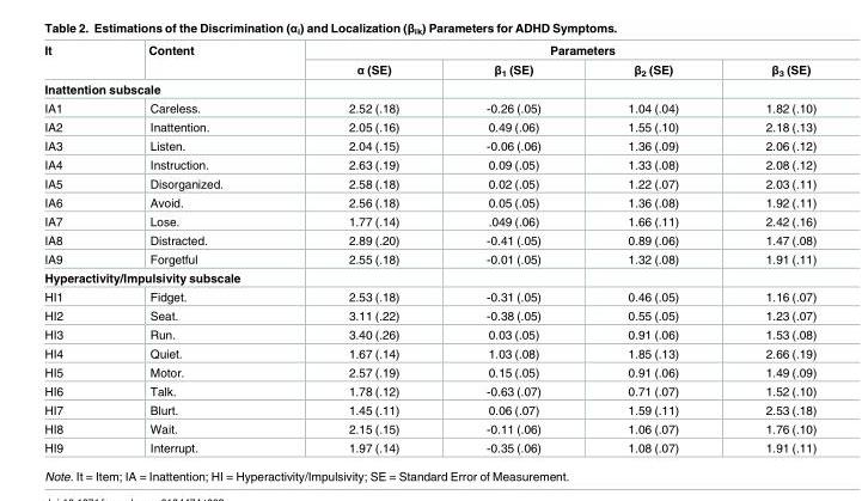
<table><thead><tr><td rowspan="2">It</td><td rowspan="2">Content</td><td colspan="4">Parameters</td></tr><tr><td>α (SE)</td><td>β<sub>1</sub> (SE)</td><td>β<sub>2</sub> (SE)</td><td>β<sub>3</sub> (SE)</td></tr></thead><tbody><tr><td colspan="6">Inattention subscale</td></tr><tr><td>IA1</td><td>Careless.</td><td>2.52 (.18)</td><td>-0.26 (.05)</td><td>1.04 (.04)</td><td>1.82 (.10)</td></tr><tr><td>IA2</td><td>Inattention.</td><td>2.05 (.16)</td><td>0.49 (.06)</td><td>1.55 (.10)</td><td>2.18 (.13)</td></tr><tr><td>IA3</td><td>Listen.</td><td>2.04 (.15)</td><td>-0.06 (.06)</td><td>1.36 (.09)</td><td>2.06 (.12)</td></tr><tr><td>IA4</td><td>Instruction.</td><td>2.63 (.19)</td><td>0.09 (.05)</td><td>1.33 (.08)</td><td>2.08 (.12)</td></tr><tr><td>IA5</td><td>Disorganized.</td><td>2.58 (.18)</td><td>0.02 (.05)</td><td>1.22 (.07)</td><td>2.03 (.11)</td></tr><tr><td>IA6</td><td>Avoid.</td><td>2.56 (.18)</td><td>0.05 (.05)</td><td>1.36 (.08)</td><td>1.92 (.11)</td></tr><tr><td>IA7</td><td>Lose.</td><td>1.77 (.14)</td><td>.049 (.06)</td><td>1.66 (.11)</td><td>2.42 (.16)</td></tr><tr><td>IA8</td><td>Distracted.</td><td>2.89 (.20)</td><td>-0.41 (.05)</td><td>0.89 (.06)</td><td>1.47 (.08)</td></tr><tr><td>IA9</td><td>Forgetful</td><td>2.55 (.18)</td><td>-0.01 (.05)</td><td>1.32 (.08)</td><td>1.91 (.11)</td></tr><tr><td colspan="6">Hyperactivity/Impulsivity subscale</td></tr><tr><td>HI1</td><td>Fidget.</td><td>2.53 (.18)</td><td>-0.31 (.05)</td><td>0.46 (.05)</td><td>1.16 (.07)</td></tr><tr><td>HI2</td><td>Seat.</td><td>3.11 (.22)</td><td>-0.38 (.05)</td><td>0.55 (.05)</td><td>1.23 (.07)</td></tr><tr><td>HI3</td><td>Run.</td><td>3.40 (.26)</td><td>0.03 (.05)</td><td>0.91 (.06)</td><td>1.53 (.08)</td></tr><tr><td>HI4</td><td>Quiet.</td><td>1.67 (.14)</td><td>1.03 (.08)</td><td>1.85 (.13)</td><td>2.66 (.19)</td></tr><tr><td>HI5</td><td>Motor.</td><td>2.57 (.19)</td><td>0.15 (.05)</td><td>0.91 (.06)</td><td>1.49 (.09)</td></tr><tr><td>HI6</td><td>Talk.</td><td>1.78 (.12)</td><td>-0.63 (.07)</td><td>0.71 (.07)</td><td>1.52 (.10)</td></tr><tr><td>HI7</td><td>Blurt.</td><td>1.45 (.11)</td><td>0.06 (.07)</td><td>1.59 (.11)</td><td>2.53 (.18)</td></tr><tr><td>HI8</td><td>Wait.</td><td>2.15 (.15)</td><td>-0.11 (.06)</td><td>1.06 (.07)</td><td>1.76 (.10)</td></tr><tr><td>HI9</td><td>Interrupt.</td><td>1.97 (.14)</td><td>-0.35 (.06)</td><td>1.08 (.07)</td><td>1.91 (.11)</td></tr></tbody></table>